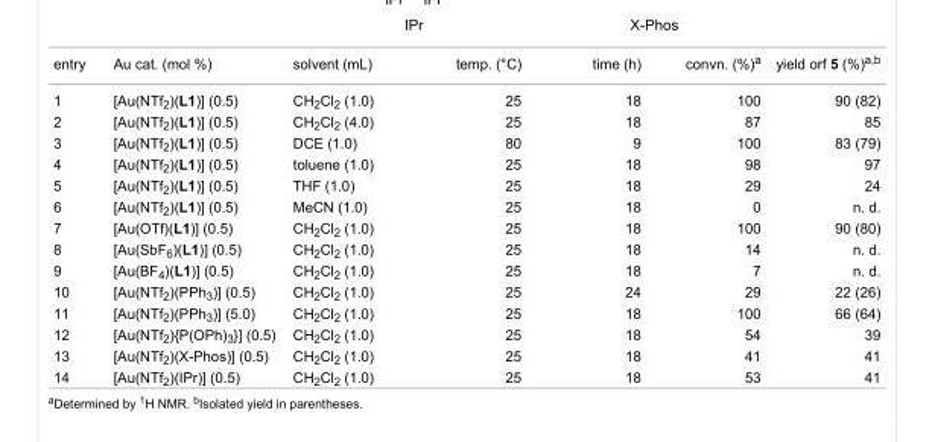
<table><tbody><tr><td>entry</td><td>Au cat. (mol %)</td><td>solvent (mL)</td><td>temp. (°C)</td><td>time (h)</td><td>convn. (%)<sup>a</sup></td><td>yield orf 5 (%)<sup>a,b</sup></td></tr><tr><td>1</td><td>[Au(NTf<sub>2</sub>)(L1)] (0.5)</td><td>CH<sub>2</sub>Cl<sub>2</sub> (1.0)</td><td>25</td><td>18</td><td>100</td><td>90 (82)</td></tr><tr><td>2</td><td>[Au(NTf<sub>2</sub>)(L1)] (0.5)</td><td>CH<sub>2</sub>Cl<sub>2</sub> (4.0)</td><td>25</td><td>18</td><td>87</td><td>85</td></tr><tr><td>3</td><td>[Au(NTf<sub>2</sub>)(L1)] (0.5)</td><td>DCE (1.0)</td><td>80</td><td>9</td><td>100</td><td>83 (79)</td></tr><tr><td>4</td><td>[Au(NTf<sub>2</sub>)(L1)] (0.5)</td><td>toluene (1.0)</td><td>25</td><td>18</td><td>98</td><td>97</td></tr><tr><td>5</td><td>[Au(NTf<sub>2</sub>)(L1)] (0.5)</td><td>THF (1.0)</td><td>25</td><td>18</td><td>29</td><td>24</td></tr><tr><td>6</td><td>[Au(NTf<sub>2</sub>)(L1)] (0.5)</td><td>MeCN (1.0)</td><td>25</td><td>18</td><td>0</td><td>n. d.</td></tr><tr><td>7</td><td>[Au(OTf)(L1)] (0.5)</td><td>CH<sub>2</sub>Cl<sub>2</sub> (1.0)</td><td>25</td><td>18</td><td>100</td><td>90 (80)</td></tr><tr><td>8</td><td>[Au(SbF<sub>6</sub>)(L1)] (0.5)</td><td>CH<sub>2</sub>Cl<sub>2</sub> (1.0)</td><td>25</td><td>18</td><td>14</td><td>n. d.</td></tr><tr><td>9</td><td>[Au(BF<sub>4</sub>)(L1)] (0.5)</td><td>CH<sub>2</sub>Cl<sub>2</sub> (1.0)</td><td>25</td><td>18</td><td>7</td><td>n. d.</td></tr><tr><td>10</td><td>[Au(NTf<sub>2</sub>)(PPh<sub>3</sub>)] (0.5)</td><td>CH<sub>2</sub>Cl<sub>2</sub> (1.0)</td><td>25</td><td>24</td><td>29</td><td>22 (26)</td></tr><tr><td>11</td><td>[Au(NTf<sub>2</sub>)(PPh<sub>3</sub>)] (5.0)</td><td>CH<sub>2</sub>Cl<sub>2</sub> (1.0)</td><td>25</td><td>18</td><td>100</td><td>66 (64)</td></tr><tr><td>12</td><td>[Au(NTf<sub>2</sub>){P(OPh)<sub>3</sub>}] (0.5)</td><td>CH<sub>2</sub>Cl<sub>2</sub> (1.0)</td><td>25</td><td>18</td><td>54</td><td>39</td></tr><tr><td>13</td><td>[Au(NTf<sub>2</sub>)(X-Phos)] (0.5)</td><td>CH<sub>2</sub>Cl<sub>2</sub> (1.0)</td><td>25</td><td>18</td><td>41</td><td>41</td></tr><tr><td>14</td><td>[Au(NTf<sub>2</sub>)(IPr)] (0.5)</td><td>CH<sub>2</sub>Cl<sub>2</sub> (1.0)</td><td>25</td><td>18</td><td>53</td><td>41</td></tr></tbody></table>